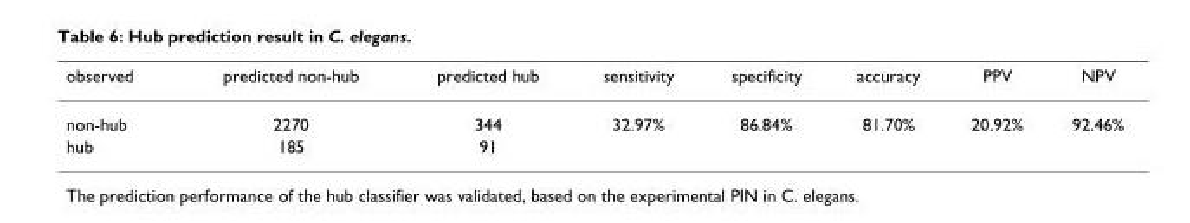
<table><thead><tr><td>observed</td><td>predicted non-hub</td><td>predicted hub</td><td>sensitivity</td><td>specificity</td><td>accuracy</td><td>PPV</td><td>NPV</td></tr></thead><tbody><tr><td>non-hub</td><td>2270</td><td>344</td><td>32.97%</td><td>86.84%</td><td>81.70%</td><td>20.92%</td><td>92.46%</td></tr><tr><td>hub</td><td>185</td><td>91</td><td></td><td></td><td></td><td></td><td></td></tr></tbody></table>